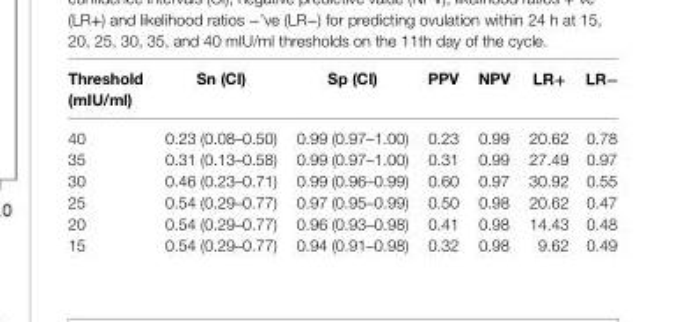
<table><thead><tr><td>Threshold (miU/ml)</td><td>sn (ci)</td><td>sp (ci)</td><td>PPV</td><td>nPV</td><td>lr+</td><td>lr−</td></tr></thead><tbody><tr><td>40</td><td>0.23 (0.08–0.50)</td><td>0.99 (0.97–1.00)</td><td>0.23</td><td>0.99</td><td>20.62</td><td>0.78</td></tr><tr><td>35</td><td>0.31 (0.13–0.58)</td><td>0.99 (0.97–1.00)</td><td>0.31</td><td>0.99</td><td>27.49</td><td>0.97</td></tr><tr><td>30</td><td>0.46 (0.23–0.71)</td><td>0.99 (0.96–0.99)</td><td>0.60</td><td>0.97</td><td>30.92</td><td>0.55</td></tr><tr><td>25</td><td>0.54 (0.29–0.77)</td><td>0.97 (0.95–0.99)</td><td>0.50</td><td>0.98</td><td>20.62</td><td>0.47</td></tr><tr><td>20</td><td>0.54 (0.29–0.77)</td><td>0.96 (0.93–0.98)</td><td>0.41</td><td>0.98</td><td>14.43</td><td>0.48</td></tr><tr><td>15</td><td>0.54 (0.29–0.77)</td><td>0.94 (0.91–0.98)</td><td>0.32</td><td>0.98</td><td>9.62</td><td>0.49</td></tr></tbody></table>